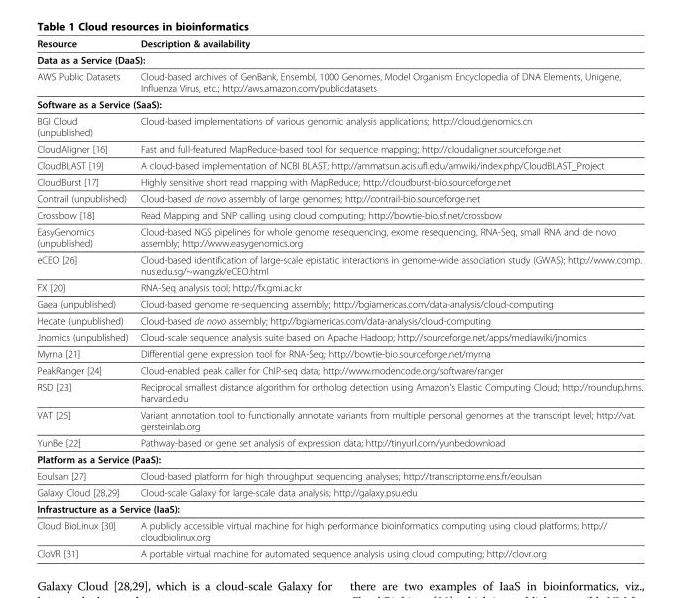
<table><thead><tr><td>Resource</td><td>Description &amp; availability</td></tr></thead><tbody><tr><td colspan="2">Data as a Service (DaaS):</td></tr><tr><td>AWS Public Datasets</td><td>Cloud-based archives of GenBank, Ensembl, 1000 Genomes, Model Organism Encyclopedia of DNA Elements, Unigene, Influenza Virus, etc.; http://aws.amazon.com/publicdatasets</td></tr><tr><td colspan="2">Software as a Service (SaaS):</td></tr><tr><td>BGI Cloud (unpublished)</td><td>Cloud-based implementations of various genomic analysis applications; http://cloud.genomics.cn</td></tr><tr><td>CloudAligner [16]</td><td>Fast and full-featured MapReduce-based tool for sequence mapping; http://cloudaligner.sourceforge.net</td></tr><tr><td>CloudBLAST [19]</td><td>A cloud-based implementation of NCBI BLAST; http://ammatsun.acis.ufl.edu/amwiki/index.php/CloudBLAST_Project</td></tr><tr><td>CloudBurst [17]</td><td>Highly sensitive short read mapping with MapReduce; http://cloudburst-bio.sourceforge.net</td></tr><tr><td>Contrail (unpublished)</td><td>Cloud-based de novo assembly of large genomes; http://contrail-bio.sourceforge.net</td></tr><tr><td>Crossbow [18]</td><td>Read Mapping and SNP calling using cloud computing; http://bowtie-bio.sf.net/crossbow</td></tr><tr><td>EasyGenomics (unpublished)</td><td>Cloud-based NGS pipelines for whole genome resequencing, exome resequencing, RNA-Seq, small RNA and de novo assembly; http://www.easygenomics.org</td></tr><tr><td>eCEO [26]</td><td>Cloud-based identification of large-scale epistatic interactions in genome-wide association study (GWAS); http://www.comp. nus.edu.sg/~wangzk/eCEO.html</td></tr><tr><td>FX [20]</td><td>RNA-Seq analysis tool; http://fx.gmi.ac.kr</td></tr><tr><td>Gaea (unpublished)</td><td>Cloud-based genome re-sequencing assembly; http://bgiamericas.com/data-analysis/cloud-computing</td></tr><tr><td>Hecate (unpublished)</td><td>Cloud-based de novo assembly; http://bgiamericas.com/data-analysis/cloud-computing</td></tr><tr><td>Jnomics (unpublished)</td><td>Cloud-scale sequence analysis suite based on Apache Hadoop; http://sourceforge.net/apps/mediawiki/jnomics</td></tr><tr><td>Myrna [21]</td><td>Differential gene expression tool for RNA-Seq; http://bowtie-bio.sourceforge.net/myrna</td></tr><tr><td>PeakRanger [24]</td><td>Cloud-enabled peak caller for ChIP-seq data; http://www.modencode.org/software/ranger</td></tr><tr><td>RSD [23]</td><td>Reciprocal smallest distance algorithm for ortholog detection using Amazon&#x27;s Elastic Computing Cloud; http://roundup.hms. harvard.edu</td></tr><tr><td>VAT [25]</td><td>Variant annotation tool to functionally annotate variants from multiple personal genomes at the transcript level; http://vat. gersteinlab.org</td></tr><tr><td>YunBe [22]</td><td>Pathway-based or gene set analysis of expression data; http://tinyurl.com/yunbedownload</td></tr><tr><td colspan="2">Platform as a Service (PaaS):</td></tr><tr><td>Eoulsan [27]</td><td>Cloud-based platform for high throughput sequencing analyses; http://transcriptome.ens.fr/eoulsan</td></tr><tr><td>Galaxy Cloud [28,29]</td><td>Cloud-scale Galaxy for large-scale data analysis; http://galaxy.psu.edu</td></tr><tr><td colspan="2">Infrastructure as a Service (IaaS):</td></tr><tr><td>Cloud BioLinux [30]</td><td>A publicly accessible virtual machine for high performance bioinformatics computing using cloud platforms; http:// cloudbiolinux.org</td></tr><tr><td>CloVR [31]</td><td>A portable virtual machine for automated sequence analysis using cloud computing; http://clovr.org</td></tr></tbody></table>